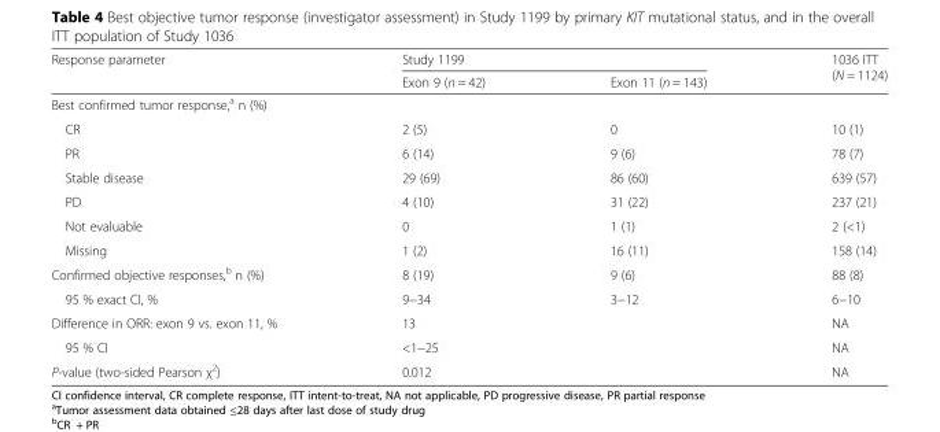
<table><thead><tr><td rowspan="2">Response parameter</td><td colspan="2">Study 1199</td><td rowspan="2">1036 ITT (N = 1124)</td></tr><tr><td>Exon 9 (n = 42)</td><td>Exon 11 (n = 143)</td></tr></thead><tbody><tr><td colspan="4">Best confirmed tumor response,<sup>a</sup> n (%)</td></tr><tr><td>CR</td><td>2 (5)</td><td>0</td><td>10 (1)</td></tr><tr><td>PR</td><td>6 (14)</td><td>9 (6)</td><td>78 (7)</td></tr><tr><td>Stable disease</td><td>29 (69)</td><td>86 (60)</td><td>639 (57)</td></tr><tr><td>PD</td><td>4 (10)</td><td>31 (22)</td><td>237 (21)</td></tr><tr><td>Not evaluable</td><td>0</td><td>1 (1)</td><td>2 (&lt;1)</td></tr><tr><td>Missing</td><td>1 (2)</td><td>16 (11)</td><td>158 (14)</td></tr><tr><td>Confirmed objective responses,<sup>b</sup> n (%)</td><td>8 (19)</td><td>9 (6)</td><td>88 (8)</td></tr><tr><td>95 % exact CI, %</td><td>9−34</td><td>3−12</td><td>6−10</td></tr><tr><td>Difference in ORR: exon 9 vs. exon 11, %</td><td colspan="2">13</td><td>NA</td></tr><tr><td>95 % CI</td><td colspan="2">&lt;1−25</td><td>NA</td></tr><tr><td>P-value (two-sided Pearson χ<sup>2</sup>)</td><td colspan="2">0.012</td><td>NA</td></tr></tbody></table>